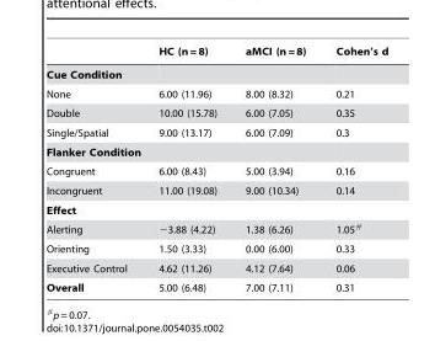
<table><thead><tr><td></td><td>HC (n = 8)</td><td>aMCI (n = 8)</td><td>Cohen’s d</td></tr></thead><tbody><tr><td colspan="4">Cue Condition</td></tr><tr><td>None</td><td>6.00 (11.96)</td><td>8.00 (8.32)</td><td>0.21</td></tr><tr><td>Double</td><td>10.00 (15.78)</td><td>6.00 (7.05)</td><td>0.35</td></tr><tr><td>Single/Spatial</td><td>9.00 (13.17)</td><td>6.00 (7.09)</td><td>0.3</td></tr><tr><td colspan="4">Flanker Condition</td></tr><tr><td>Congruent</td><td>6.00 (8.43)</td><td>5.00 (3.94)</td><td>0.16</td></tr><tr><td>Incongruent</td><td>11.00 (19.08)</td><td>9.00 (10.34)</td><td>0.14</td></tr><tr><td colspan="4">Effect</td></tr><tr><td>Alerting</td><td>−3.88 (4.22)</td><td>1.38 (6.26)</td><td>1.05#</td></tr><tr><td>Orienting</td><td>1.50 (3.33)</td><td>0.00 (6.00)</td><td>0.33</td></tr><tr><td>Executive Control</td><td>4.62 (11.26)</td><td>4.12 (7.64)</td><td>0.06</td></tr><tr><td>Overall</td><td>5.00 (6.48)</td><td>7.00 (7.11)</td><td>0.31</td></tr></tbody></table>